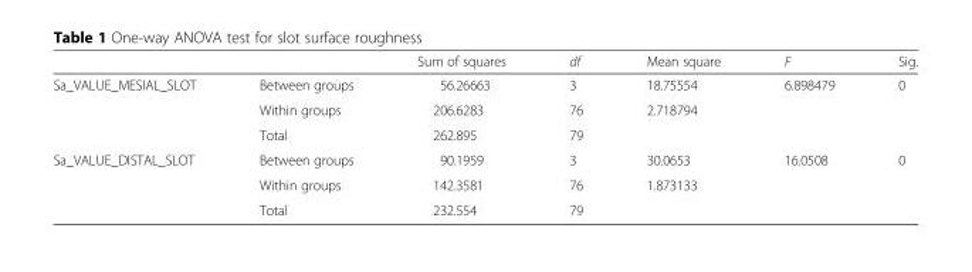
<table><thead><tr><td></td><td></td><td>Sum of squares</td><td>df</td><td>Mean square</td><td>F</td><td>Sig.</td></tr></thead><tbody><tr><td rowspan="3">Sa_VALUE_MESIAL_SLOT</td><td>Between groups</td><td>56.26663</td><td>3</td><td>18.75554</td><td>6.898479</td><td>0</td></tr><tr><td>Within groups</td><td>206.6283</td><td>76</td><td>2.718794</td><td></td><td></td></tr><tr><td>Total</td><td>262.895</td><td>79</td><td></td><td></td><td></td></tr><tr><td rowspan="3">Sa_VALUE_DISTAL_SLOT</td><td>Between groups</td><td>90.1959</td><td>3</td><td>30.0653</td><td>16.0508</td><td>0</td></tr><tr><td>Within groups</td><td>142.3581</td><td>76</td><td>1.873133</td><td></td><td></td></tr><tr><td>Total</td><td>232.554</td><td>79</td><td></td><td></td><td></td></tr></tbody></table>